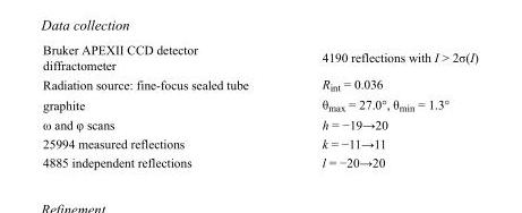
<table><tbody><tr><td>Bruker APEXII CCD detector diffractometer</td><td>4190 reflections with I &gt; 2σ(I)</td></tr><tr><td>Radiation source: fine-focus sealed tube</td><td>R<sub>int</sub> = 0.036</td></tr><tr><td>graphite</td><td>θ<sub>max</sub> = 27.0°, θ<sub>min</sub> = 1.3°</td></tr><tr><td>ω and φ scans</td><td>h = −19→20</td></tr><tr><td>25994 measured reflections</td><td>k = −11→11</td></tr><tr><td>4885 independent reflections</td><td>l = −20→20</td></tr></tbody></table>